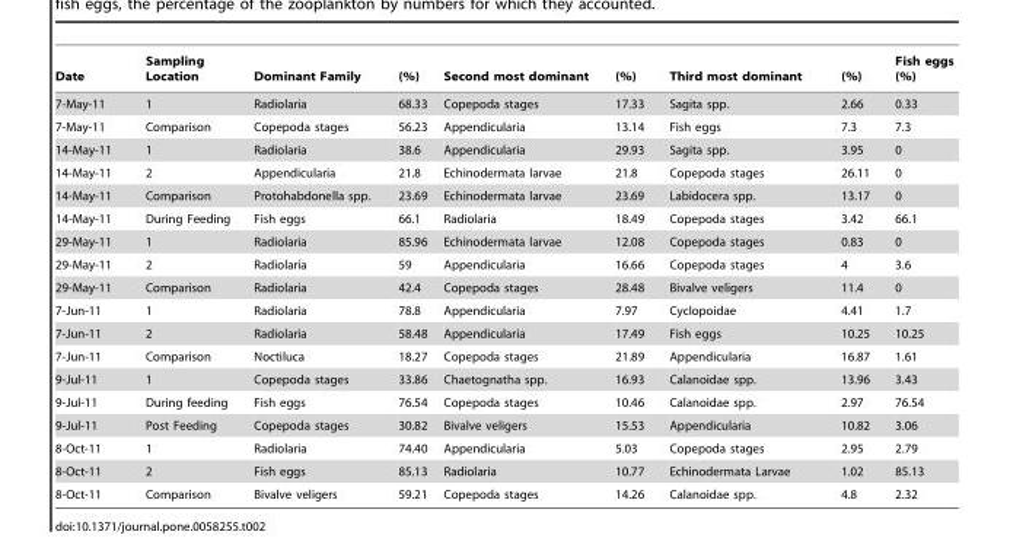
<table><thead><tr><td>Date</td><td>Sampling Location</td><td>Dominant Family</td><td>(%)</td><td>Second most dominant</td><td>(%)</td><td>Third most dominant</td><td>(%)</td><td>Fish eggs (%)</td></tr></thead><tbody><tr><td>7-May-11</td><td>1</td><td>Radiolaria</td><td>68.33</td><td>Copepoda stages</td><td>17.33</td><td>Sagita spp.</td><td>2.66</td><td>0.33</td></tr><tr><td>7-May-11</td><td>Comparison</td><td>Copepoda stages</td><td>56.23</td><td>Appendicularia</td><td>13.14</td><td>Fish eggs</td><td>7.3</td><td>7.3</td></tr><tr><td>14-May-11</td><td>1</td><td>Radiolaria</td><td>38.6</td><td>Appendicularia</td><td>29.93</td><td>Sagita spp.</td><td>3.95</td><td>0</td></tr><tr><td>14-May-11</td><td>2</td><td>Appendicularia</td><td>21.8</td><td>Echinodermata larvae</td><td>21.8</td><td>Copepoda stages</td><td>26.11</td><td>0</td></tr><tr><td>14-May-11</td><td>Comparison</td><td>Protohabdonella spp.</td><td>23.69</td><td>Echinodermata larvae</td><td>23.69</td><td>Labidocera spp.</td><td>13.17</td><td>0</td></tr><tr><td>14-May-11</td><td>During Feeding</td><td>Fish eggs</td><td>66.1</td><td>Radiolaria</td><td>18.49</td><td>Copepoda stages</td><td>3.42</td><td>66.1</td></tr><tr><td>29-May-11</td><td>1</td><td>Radiolaria</td><td>85.96</td><td>Echinodermata larvae</td><td>12.08</td><td>Copepoda stages</td><td>0.83</td><td>0</td></tr><tr><td>29-May-11</td><td>2</td><td>Radiolaria</td><td>59</td><td>Appendicularia</td><td>16.66</td><td>Copepoda stages</td><td>4</td><td>3.6</td></tr><tr><td>29-May-11</td><td>Comparison</td><td>Radiolaria</td><td>42.4</td><td>Copepoda stages</td><td>28.48</td><td>Bivalve veligers</td><td>11.4</td><td>0</td></tr><tr><td>7-Jun-11</td><td>1</td><td>Radiolaria</td><td>78.8</td><td>Appendicularia</td><td>7.97</td><td>Cyclopoidae</td><td>4.41</td><td>1.7</td></tr><tr><td>7-Jun-11</td><td>2</td><td>Radiolaria</td><td>58.48</td><td>Appendicularia</td><td>17.49</td><td>Fish eggs</td><td>10.25</td><td>10.25</td></tr><tr><td>7-Jun-11</td><td>Comparison</td><td>Noctiluca</td><td>18.27</td><td>Copepoda stages</td><td>21.89</td><td>Appendicularia</td><td>16.87</td><td>1.61</td></tr><tr><td>9-Jul-11</td><td>1</td><td>Copepoda stages</td><td>33.86</td><td>Chaetognatha spp.</td><td>16.93</td><td>Calanoidae spp.</td><td>13.96</td><td>3.43</td></tr><tr><td>9-Jul-11</td><td>During feeding</td><td>Fish eggs</td><td>76.54</td><td>Copepoda stages</td><td>10.46</td><td>Calanoidae spp.</td><td>2.97</td><td>76.54</td></tr><tr><td>9-Jul-11</td><td>Post Feeding</td><td>Copepoda stages</td><td>30.82</td><td>Bivalve veligers</td><td>15.53</td><td>Appendicularia</td><td>10.82</td><td>3.06</td></tr><tr><td>8-Oct-11</td><td>1</td><td>Radiolaria</td><td>74.40</td><td>Appendicularia</td><td>5.03</td><td>Copepoda stages</td><td>2.95</td><td>2.79</td></tr><tr><td>8-Oct-11</td><td>2</td><td>Fish eggs</td><td>85.13</td><td>Radiolaria</td><td>10.77</td><td>Echinodermata Larvae</td><td>1.02</td><td>85.13</td></tr><tr><td>8-Oct-11</td><td>Comparison</td><td>Bivalve veligers</td><td>59.21</td><td>Copepoda stages</td><td>14.26</td><td>Calanoidae spp.</td><td>4.8</td><td>2.32</td></tr></tbody></table>